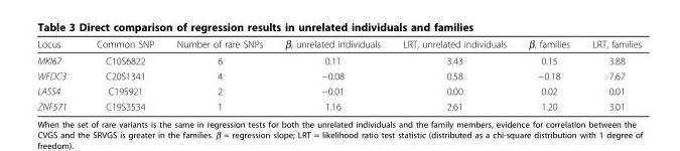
<table><thead><tr><td>Locus</td><td>Common SNP</td><td>Number of rare SNPs</td><td>β, unrelated individuals</td><td>LRT, unrelated individuals</td><td>β, families</td><td>LRT, families</td></tr></thead><tbody><tr><td>MKI67</td><td>C10S6822</td><td>6</td><td>0.11</td><td>3.43</td><td>0.15</td><td>3.88</td></tr><tr><td>WFDC3</td><td>C20S1341</td><td>4</td><td>−0.08</td><td>0.58</td><td>−0.18</td><td>7.67</td></tr><tr><td>LASS4</td><td>C19S921</td><td>2</td><td>−0.01</td><td>0.00</td><td>0.02</td><td>0.01</td></tr><tr><td>ZNF571</td><td>C19S3534</td><td>1</td><td>1.16</td><td>2.61</td><td>1.20</td><td>3.01</td></tr></tbody></table>